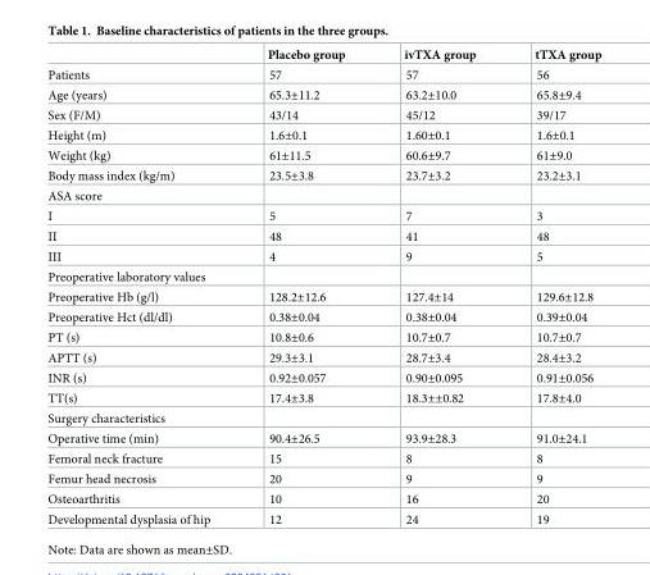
<table><thead><tr><td></td><td>Placebo group</td><td>ivTXA group</td><td>tTXA group</td></tr></thead><tbody><tr><td>Patients</td><td>57</td><td>57</td><td>56</td></tr><tr><td>Age (years)</td><td>65.3±11.2</td><td>63.2±10.0</td><td>65.8±9.4</td></tr><tr><td>Sex (F/M)</td><td>43/14</td><td>45/12</td><td>39/17</td></tr><tr><td>Height (m)</td><td>1.6±0.1</td><td>1.60±0.1</td><td>1.6±0.1</td></tr><tr><td>Weight (kg)</td><td>61±11.5</td><td>60.6±9.7</td><td>61±9.0</td></tr><tr><td>Body mass index (kg/m)</td><td>23.5±3.8</td><td>23.7±3.2</td><td>23.2±3.1</td></tr><tr><td colspan="4">ASA score</td></tr><tr><td>I</td><td>5</td><td>7</td><td>3</td></tr><tr><td>II</td><td>48</td><td>41</td><td>48</td></tr><tr><td>III</td><td>4</td><td>9</td><td>5</td></tr><tr><td colspan="4">Preoperative laboratory values</td></tr><tr><td>Preoperative Hb (g/l)</td><td>128.2±12.6</td><td>127.4±14</td><td>129.6±12.8</td></tr><tr><td>Preoperative Hct (dl/dl)</td><td>0.38±0.04</td><td>0.38±0.04</td><td>0.39±0.04</td></tr><tr><td>PT (s)</td><td>10.8±0.6</td><td>10.7±0.7</td><td>10.7±0.7</td></tr><tr><td>APTT (s)</td><td>29.3±3.1</td><td>28.7±3.4</td><td>28.4±3.2</td></tr><tr><td>INR (s)</td><td>0.92±0.057</td><td>0.90±0.095</td><td>0.91±0.056</td></tr><tr><td>TT(s)</td><td>17.4±3.8</td><td>18.3±±0.82</td><td>17.8±4.0</td></tr><tr><td colspan="4">Surgery characteristics</td></tr><tr><td>Operative time (min)</td><td>90.4±26.5</td><td>93.9±28.3</td><td>91.0±24.1</td></tr><tr><td>Femoral neck fracture</td><td>15</td><td>8</td><td>8</td></tr><tr><td>Femur head necrosis</td><td>20</td><td>9</td><td>9</td></tr><tr><td>Osteoarthritis</td><td>10</td><td>16</td><td>20</td></tr><tr><td>Developmental dysplasia of hip</td><td>12</td><td>24</td><td>19</td></tr></tbody></table>